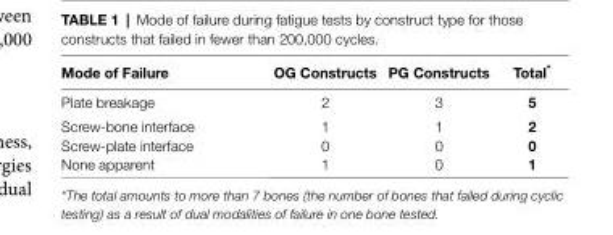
<table><thead><tr><td>Mode of Failure</td><td>Og constructs</td><td>Pg constructs</td><td>total*</td></tr></thead><tbody><tr><td>Plate breakage</td><td>2</td><td>3</td><td>5</td></tr><tr><td>Screw-bone interface</td><td>1</td><td>1</td><td>2</td></tr><tr><td>Screw-plate interface</td><td>0</td><td>0</td><td>0</td></tr><tr><td>None apparent</td><td>1</td><td>0</td><td>1</td></tr></tbody></table>